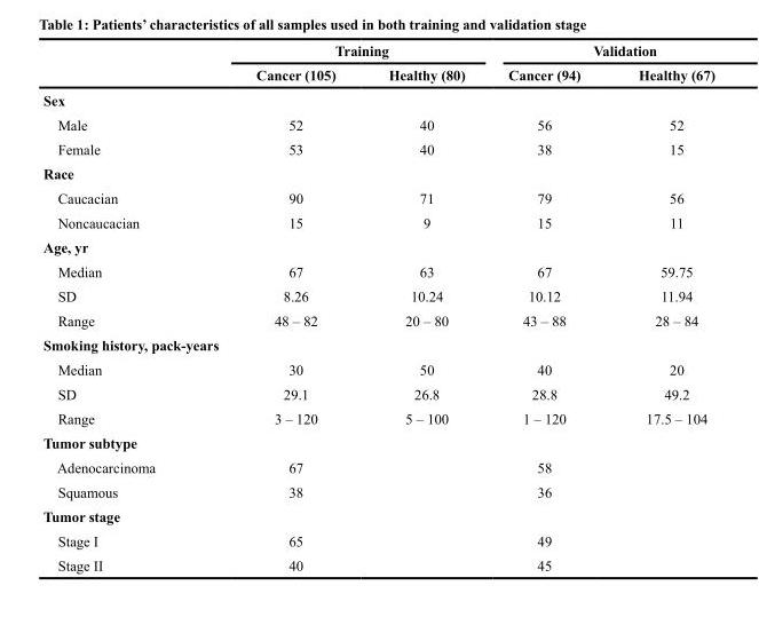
<table><thead><tr><td rowspan="2"></td><td colspan="2">Training</td><td colspan="2">Validation</td></tr><tr><td>Cancer (105)</td><td>Healthy (80)</td><td>Cancer (94)</td><td>Healthy (67)</td></tr></thead><tbody><tr><td colspan="5">Sex</td></tr><tr><td>Male</td><td>52</td><td>40</td><td>56</td><td>52</td></tr><tr><td>Female</td><td>53</td><td>40</td><td>38</td><td>15</td></tr><tr><td colspan="5">Race</td></tr><tr><td>Caucacian</td><td>90</td><td>71</td><td>79</td><td>56</td></tr><tr><td>Noncaucacian</td><td>15</td><td>9</td><td>15</td><td>11</td></tr><tr><td colspan="5">Age, yr</td></tr><tr><td>Median</td><td>67</td><td>63</td><td>67</td><td>59.75</td></tr><tr><td>SD</td><td>8.26</td><td>10.24</td><td>10.12</td><td>11.94</td></tr><tr><td>Range</td><td>48 – 82</td><td>20 – 80</td><td>43 – 88</td><td>28 – 84</td></tr><tr><td colspan="5">Smoking history, pack-years</td></tr><tr><td>Median</td><td>30</td><td>50</td><td>40</td><td>20</td></tr><tr><td>SD</td><td>29.1</td><td>26.8</td><td>28.8</td><td>49.2</td></tr><tr><td>Range</td><td>3 – 120</td><td>5 – 100</td><td>1 – 120</td><td>17.5 – 104</td></tr><tr><td colspan="5">Tumor subtype</td></tr><tr><td>Adenocarcinoma</td><td>67</td><td></td><td>58</td><td></td></tr><tr><td>Squamous</td><td>38</td><td></td><td>36</td><td></td></tr><tr><td colspan="5">Tumor stage</td></tr><tr><td>Stage I</td><td>65</td><td></td><td>49</td><td></td></tr><tr><td>Stage II</td><td>40</td><td></td><td>45</td><td></td></tr></tbody></table>